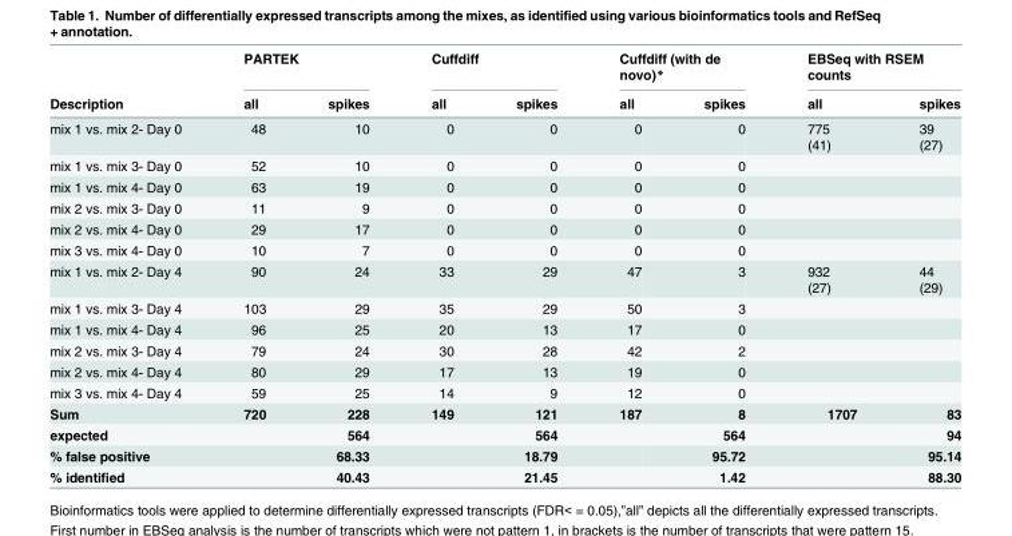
<table><thead><tr><td rowspan="2">Description</td><td colspan="2">PARTEK</td><td colspan="2">Cuffdiff</td><td colspan="2">Cuffdiff (with de novo)*</td><td colspan="2">EBSeq with RSEM counts</td></tr><tr><td>all</td><td>spikes</td><td>all</td><td>spikes</td><td>all</td><td>spikes</td><td>all</td><td>spikes</td></tr></thead><tbody><tr><td>mix 1 vs. mix 2- Day 0</td><td>48</td><td>10</td><td>0</td><td>0</td><td>0</td><td>0</td><td>775 (41)</td><td>39 (27)</td></tr><tr><td>mix 1 vs. mix 3- Day 0</td><td>52</td><td>10</td><td>0</td><td>0</td><td>0</td><td>0</td><td></td><td></td></tr><tr><td>mix 1 vs. mix 4- Day 0</td><td>63</td><td>19</td><td>0</td><td>0</td><td>0</td><td>0</td><td></td><td></td></tr><tr><td>mix 2 vs. mix 3- Day 0</td><td>11</td><td>9</td><td>0</td><td>0</td><td>0</td><td>0</td><td></td><td></td></tr><tr><td>mix 2 vs. mix 4- Day 0</td><td>29</td><td>17</td><td>0</td><td>0</td><td>0</td><td>0</td><td></td><td></td></tr><tr><td>mix 3 vs. mix 4- Day 0</td><td>10</td><td>7</td><td>0</td><td>0</td><td>0</td><td>0</td><td></td><td></td></tr><tr><td>mix 1 vs. mix 2- Day 4</td><td>90</td><td>24</td><td>33</td><td>29</td><td>47</td><td>3</td><td>932 (27)</td><td>44 (29)</td></tr><tr><td>mix 1 vs. mix 3- Day 4</td><td>103</td><td>29</td><td>35</td><td>29</td><td>50</td><td>3</td><td></td><td></td></tr><tr><td>mix 1 vs. mix 4- Day 4</td><td>96</td><td>25</td><td>20</td><td>13</td><td>17</td><td>0</td><td></td><td></td></tr><tr><td>mix 2 vs. mix 3- Day 4</td><td>79</td><td>24</td><td>30</td><td>28</td><td>42</td><td>2</td><td></td><td></td></tr><tr><td>mix 2 vs. mix 4- Day 4</td><td>80</td><td>29</td><td>17</td><td>13</td><td>19</td><td>0</td><td></td><td></td></tr><tr><td>mix 3 vs. mix 4- Day 4</td><td>59</td><td>25</td><td>14</td><td>9</td><td>12</td><td>0</td><td></td><td></td></tr><tr><td>Sum</td><td>720</td><td>228</td><td>149</td><td>121</td><td>187</td><td>8</td><td>1707</td><td>83</td></tr><tr><td>expected</td><td></td><td>564</td><td></td><td>564</td><td></td><td>564</td><td></td><td>94</td></tr><tr><td>% false positive</td><td></td><td>68.33</td><td></td><td>18.79</td><td></td><td>95.72</td><td></td><td>95.14</td></tr><tr><td>% identified</td><td></td><td>40.43</td><td></td><td>21.45</td><td></td><td>1.42</td><td></td><td>88.30</td></tr></tbody></table>